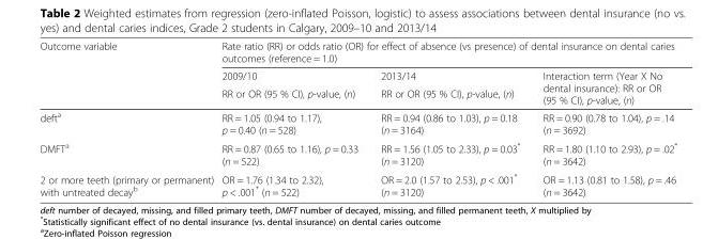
<table><thead><tr><td rowspan="3">Outcome variable</td><td colspan="3">Rate ratio (RR) or odds ratio (OR) for effect of absence (vs presence) of dental insurance on dental caries outcomes (reference = 1.0)</td></tr><tr><td rowspan="2">2009/10 RR or OR (95 % CI), p-value, (n)</td><td rowspan="2">2013/14 RR or OR (95 % CI), p-value, (n)</td><td rowspan="2">Interaction term (Year X No dental insurance): RR or OR (95 % CI), p-value, (n)</td></tr><tr></tr></thead><tbody><tr><td>deft<sup>a</sup></td><td>RR = 1.05 (0.94 to 1.17), p = 0.40 (n = 528)</td><td>RR = 0.94 (0.86 to 1.03), p = 0.18 (n = 3164)</td><td>RR = 0.90 (0.78 to 1.04), p = .14 (n = 3692)</td></tr><tr><td>DMFT<sup>a</sup></td><td>RR = 0.87 (0.65 to 1.16), p = 0.33 (n = 522)</td><td>RR = 1.56 (1.05 to 2.33), p = 0.03* (n = 3120)</td><td>RR = 1.80 (1.10 to 2.93), p = .02* (n = 3642)</td></tr><tr><td>2 or more teeth (primary or permanent) with untreated decay<sup>b</sup></td><td>OR = 1.76 (1.34 to 2.32), p &lt; .001* (n = 522)</td><td>OR = 2.0 (1.57 to 2.53), p &lt; .001* (n = 3120)</td><td>OR = 1.13 (0.81 to 1.58), p = .46 (n = 3642)</td></tr></tbody></table>